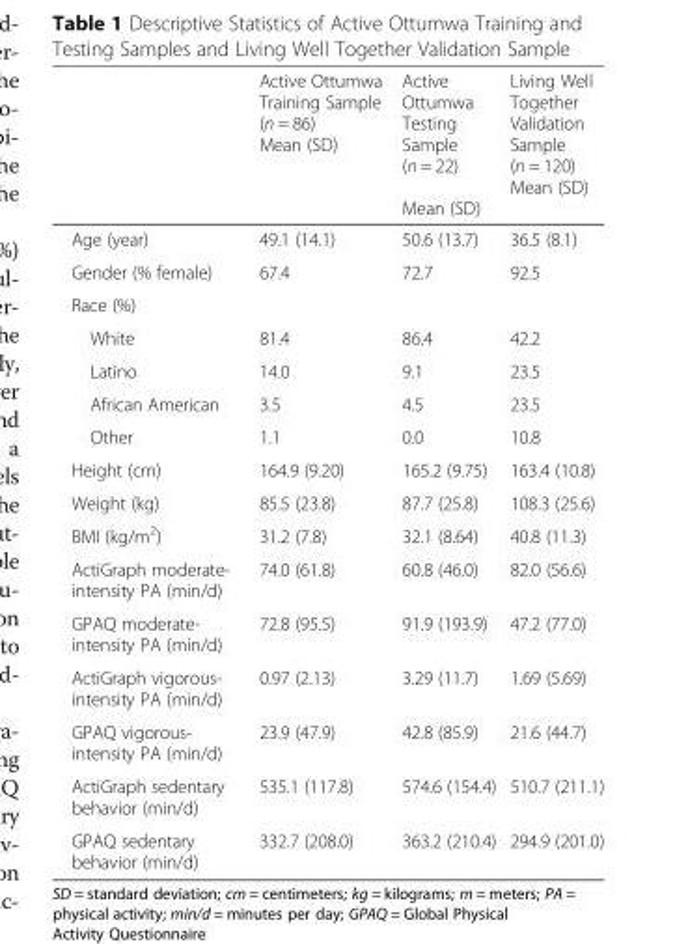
<table><thead><tr><td></td><td>Active Ottumwa Training Sample (n = 86) Mean (SD)</td><td>Active Ottumwa Testing Sample (n = 22) Mean (SD)</td><td>Living Well Together Validation Sample (n = 120) Mean (SD)</td></tr></thead><tbody><tr><td>Age (year)</td><td>49.1 (14.1)</td><td>50.6 (13.7)</td><td>36.5 (8.1)</td></tr><tr><td>Gender (% female)</td><td>67.4</td><td>72.7</td><td>92.5</td></tr><tr><td colspan="4">Race (%)</td></tr><tr><td>White</td><td>81.4</td><td>86.4</td><td>42.2</td></tr><tr><td>Latino</td><td>14.0</td><td>9.1</td><td>23.5</td></tr><tr><td>African American</td><td>3.5</td><td>4.5</td><td>23.5</td></tr><tr><td>Other</td><td>1.1</td><td>0.0</td><td>10.8</td></tr><tr><td>Height (cm)</td><td>164.9 (9.20)</td><td>165.2 (9.75)</td><td>163.4 (10.8)</td></tr><tr><td>Weight (kg)</td><td>85.5 (23.8)</td><td>87.7 (25.8)</td><td>108.3 (25.6)</td></tr><tr><td>BMI (kg/m<sup>2</sup>)</td><td>31.2 (7.8)</td><td>32.1 (8.64)</td><td>40.8 (11.3)</td></tr><tr><td>ActiGraph moderate- intensity PA (min/d)</td><td>74.0 (61.8)</td><td>60.8 (46.0)</td><td>82.0 (56.6)</td></tr><tr><td>GPAQ moderate- intensity PA (min/d)</td><td>72.8 (95.5)</td><td>91.9 (193.9)</td><td>47.2 (77.0)</td></tr><tr><td>ActiGraph vigorous- intensity PA (min/d)</td><td>0.97 (2.13)</td><td>3.29 (11.7)</td><td>1.69 (5.69)</td></tr><tr><td>GPAQ vigorous- intensity PA (min/d)</td><td>23.9 (47.9)</td><td>42.8 (85.9)</td><td>21.6 (44.7)</td></tr><tr><td>ActiGraph sedentary behavior (min/d)</td><td>535.1 (117.8)</td><td>574.6 (154.4)</td><td>510.7 (211.1)</td></tr><tr><td>GPAQ sedentary behavior (min/d)</td><td>332.7 (208.0)</td><td>363.2 (210.4)</td><td>294.9 (201.0)</td></tr></tbody></table>